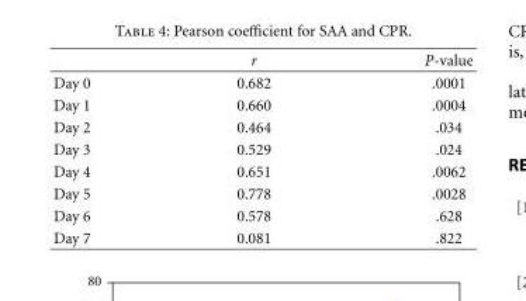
<table><thead><tr><td></td><td>r</td><td>P-value</td></tr></thead><tbody><tr><td>Day 0</td><td>0.682</td><td>.0001</td></tr><tr><td>Day 1</td><td>0.660</td><td>.0004</td></tr><tr><td>Day 2</td><td>0.464</td><td>.034</td></tr><tr><td>Day 3</td><td>0.529</td><td>.024</td></tr><tr><td>Day 4</td><td>0.651</td><td>.0062</td></tr><tr><td>Day 5</td><td>0.778</td><td>.0028</td></tr><tr><td>Day 6</td><td>0.578</td><td>.628</td></tr><tr><td>Day 7</td><td>0.081</td><td>.822</td></tr></tbody></table>